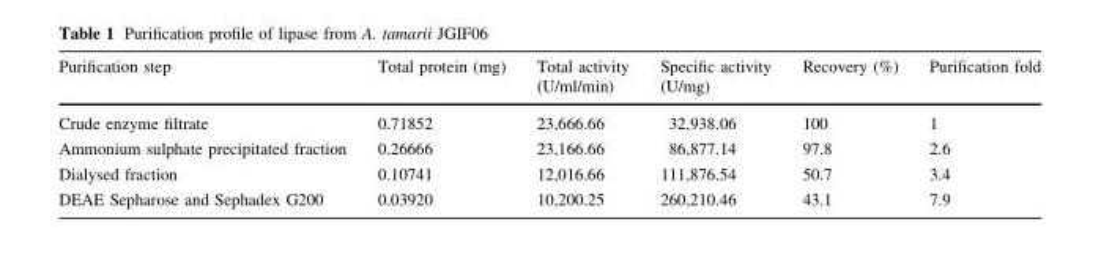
<table><thead><tr><td>Purification step</td><td>Total protein (mg)</td><td>Total activity (U/ml/min)</td><td>Specific activity (U/mg)</td><td>Recovery (%)</td><td>Purification fold</td></tr></thead><tbody><tr><td>Crude enzyme filtrate</td><td>0.71852</td><td>23,666.66</td><td>32,938.06</td><td>100</td><td>1</td></tr><tr><td>Ammonium sulphate precipitated fraction</td><td>0.26666</td><td>23,166.66</td><td>86,877.14</td><td>97.8</td><td>2.6</td></tr><tr><td>Dialysed fraction</td><td>0.10741</td><td>12,016.66</td><td>111,876.54</td><td>50.7</td><td>3.4</td></tr><tr><td>DEAE Sepharose and Sephadex G200</td><td>0.03920</td><td>10,200.25</td><td>260,210.46</td><td>43.1</td><td>7.9</td></tr></tbody></table>